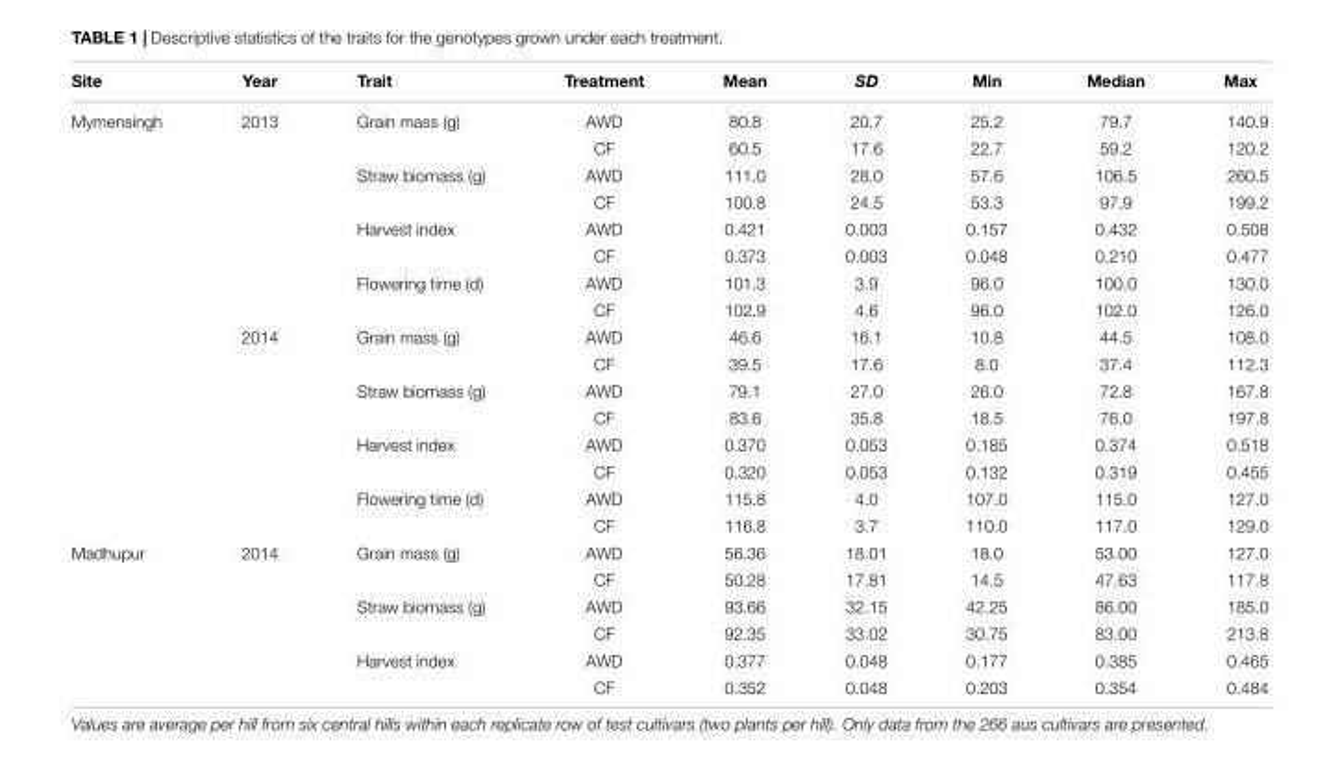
<table><thead><tr><td>Site</td><td>Year</td><td>Trait</td><td>Treatment</td><td>Mean</td><td>SD</td><td>Min</td><td>Median</td><td>Max</td></tr></thead><tbody><tr><td rowspan="16">Mymensingh</td><td>2013</td><td>Grain mass (g)</td><td>AWD</td><td>80.8</td><td>20.7</td><td>25.2</td><td>79.7</td><td>140.9</td></tr><tr><td></td><td></td><td>CF</td><td>60.5</td><td>17.6</td><td>22.7</td><td>59.2</td><td>120.2</td></tr><tr><td></td><td>Straw biomass (g)</td><td>AWD</td><td>111.0</td><td>28.0</td><td>57.6</td><td>106.5</td><td>260.5</td></tr><tr><td></td><td></td><td>CF</td><td>100.8</td><td>24.5</td><td>53.3</td><td>97.9</td><td>199.2</td></tr><tr><td></td><td>Harvest index</td><td>AWD</td><td>0.421</td><td>0.003</td><td>0.157</td><td>0.432</td><td>0.508</td></tr><tr><td></td><td></td><td>CF</td><td>0.373</td><td>0.003</td><td>0.048</td><td>0.210</td><td>0.477</td></tr><tr><td></td><td>Flowering time (d)</td><td>AWD</td><td>101.3</td><td>3.9</td><td>96.0</td><td>100.0</td><td>130.0</td></tr><tr><td></td><td></td><td>CF</td><td>102.9</td><td>4.6</td><td>96.0</td><td>102.0</td><td>126.0</td></tr><tr><td>2014</td><td>Grain mass (g)</td><td>AWD</td><td>46.6</td><td>16.1</td><td>10.8</td><td>44.5</td><td>108.0</td></tr><tr><td></td><td></td><td>CF</td><td>39.5</td><td>17.6</td><td>8.0</td><td>37.4</td><td>112.3</td></tr><tr><td></td><td>Straw biomass (g)</td><td>AWD</td><td>79.1</td><td>27.0</td><td>26.0</td><td>72.8</td><td>167.8</td></tr><tr><td></td><td></td><td>CF</td><td>83.6</td><td>35.8</td><td>18.5</td><td>76.0</td><td>197.8</td></tr><tr><td></td><td>Harvest index</td><td>AWD</td><td>0.370</td><td>0.053</td><td>0.185</td><td>0.374</td><td>0.518</td></tr><tr><td></td><td></td><td>CF</td><td>0.320</td><td>0.053</td><td>0.132</td><td>0.319</td><td>0.455</td></tr><tr><td></td><td>Flowering time (d)</td><td>AWD</td><td>115.8</td><td>4.0</td><td>107.0</td><td>115.0</td><td>127.0</td></tr><tr><td></td><td></td><td>CF</td><td>116.8</td><td>3.7</td><td>110.0</td><td>117.0</td><td>129.0</td></tr><tr><td rowspan="6">Madhupur</td><td>2014</td><td>Grain mass (g)</td><td>AWD</td><td>56.36</td><td>18.01</td><td>18.0</td><td>53.00</td><td>127.0</td></tr><tr><td></td><td></td><td>CF</td><td>50.28</td><td>17.81</td><td>14.5</td><td>47.63</td><td>117.8</td></tr><tr><td></td><td>Straw biomass (g)</td><td>AWD</td><td>93.66</td><td>32.15</td><td>42.25</td><td>86.00</td><td>185.0</td></tr><tr><td></td><td></td><td>CF</td><td>92.35</td><td>33.02</td><td>30.75</td><td>83.00</td><td>213.8</td></tr><tr><td></td><td>Harvest index</td><td>AWD</td><td>0.377</td><td>0.048</td><td>0.177</td><td>0.385</td><td>0.465</td></tr><tr><td></td><td></td><td>CF</td><td>0.352</td><td>0.048</td><td>0.203</td><td>0.354</td><td>0.484</td></tr></tbody></table>